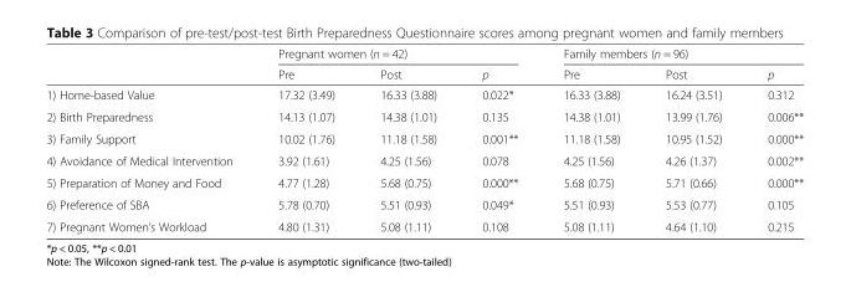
<table><thead><tr><td rowspan="2"></td><td colspan="3">Pregnant women (n = 42)</td><td colspan="3">Family members (n = 96)</td></tr><tr><td>Pre</td><td>Post</td><td>p</td><td>Pre</td><td>Post</td><td>p</td></tr></thead><tbody><tr><td>1) Home-based Value</td><td>17.32 (3.49)</td><td>16.33 (3.88)</td><td>0.022*</td><td>16.33 (3.88)</td><td>16.24 (3.51)</td><td>0.312</td></tr><tr><td>2) Birth Preparedness</td><td>14.13 (1.07)</td><td>14.38 (1.01)</td><td>0.135</td><td>14.38 (1.01)</td><td>13.99 (1.76)</td><td>0.006**</td></tr><tr><td>3) Family Support</td><td>10.02 (1.76)</td><td>11.18 (1.58)</td><td>0.001**</td><td>11.18 (1.58)</td><td>10.95 (1.52)</td><td>0.000**</td></tr><tr><td>4) Avoidance of Medical Intervention</td><td>3.92 (1.61)</td><td>4.25 (1.56)</td><td>0.078</td><td>4.25 (1.56)</td><td>4.26 (1.37)</td><td>0.002**</td></tr><tr><td>5) Preparation of Money and Food</td><td>4.77 (1.28)</td><td>5.68 (0.75)</td><td>0.000**</td><td>5.68 (0.75)</td><td>5.71 (0.66)</td><td>0.000**</td></tr><tr><td>6) Preference of SBA</td><td>5.78 (0.70)</td><td>5.51 (0.93)</td><td>0.049*</td><td>5.51 (0.93)</td><td>5.53 (0.77)</td><td>0.105</td></tr><tr><td>7) Pregnant Women’s Workload</td><td>4.80 (1.31)</td><td>5.08 (1.11)</td><td>0.108</td><td>5.08 (1.11)</td><td>4.64 (1.10)</td><td>0.215</td></tr></tbody></table>